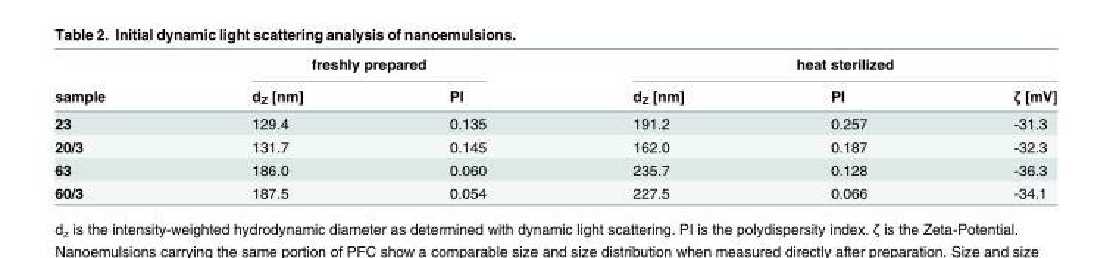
<table><thead><tr><td rowspan="2">sample</td><td colspan="2">freshly prepared</td><td colspan="3">heat sterilized</td></tr><tr><td>d<sub>Z</sub> [nm]</td><td>PI</td><td>d<sub>Z</sub> [nm]</td><td>PI</td><td>ζ [mV]</td></tr></thead><tbody><tr><td>23</td><td>129.4</td><td>0.135</td><td>191.2</td><td>0.257</td><td>-31.3</td></tr><tr><td>20/3</td><td>131.7</td><td>0.145</td><td>162.0</td><td>0.187</td><td>-32.3</td></tr><tr><td>63</td><td>186.0</td><td>0.060</td><td>235.7</td><td>0.128</td><td>-36.3</td></tr><tr><td>60/3</td><td>187.5</td><td>0.054</td><td>227.5</td><td>0.066</td><td>-34.1</td></tr></tbody></table>